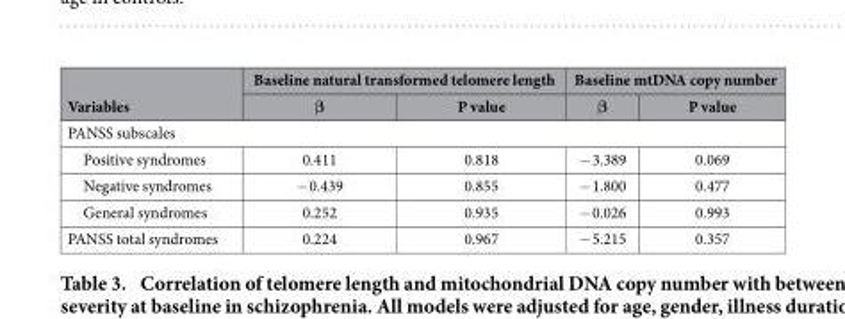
<table><thead><tr><td rowspan="2">Variables</td><td colspan="2">Baseline natural transformed telomere length</td><td colspan="2">Baseline mtDNA copy number</td></tr><tr><td>β</td><td>P value</td><td>β</td><td>P value</td></tr></thead><tbody><tr><td colspan="5">PANSS subscales</td></tr><tr><td>Positive syndromes</td><td>0.411</td><td>0.818</td><td>− 3.389</td><td>0.069</td></tr><tr><td>Negative syndromes</td><td>− 0.439</td><td>0.855</td><td>− 1.800</td><td>0.477</td></tr><tr><td>General syndromes</td><td>0.252</td><td>0.935</td><td>− 0.026</td><td>0.993</td></tr><tr><td>PANSS total syndromes</td><td>0.224</td><td>0.967</td><td>− 5.215</td><td>0.357</td></tr></tbody></table>